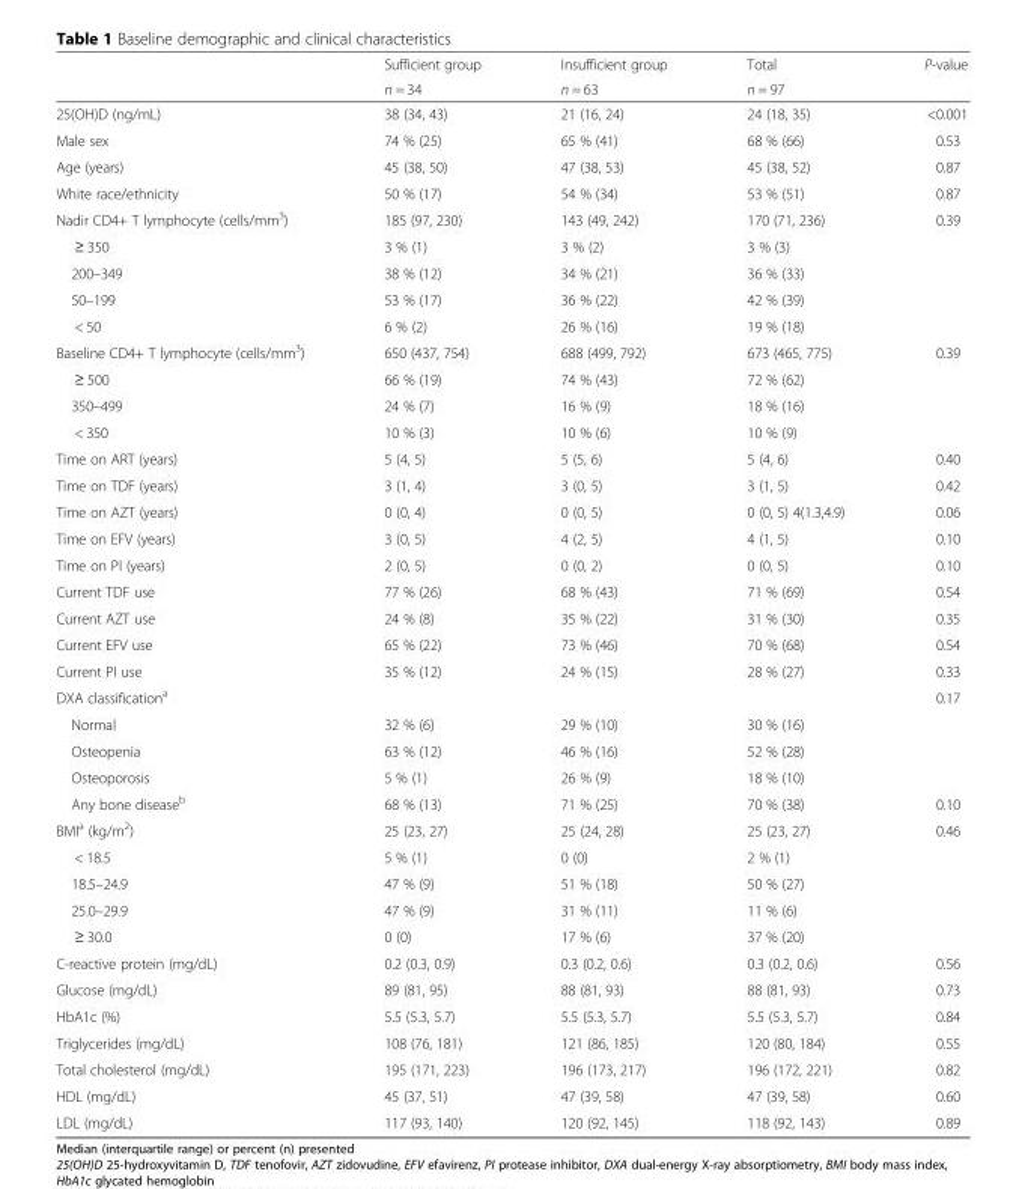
<table><thead><tr><td rowspan="2"></td><td rowspan="2">Sufficient group n = 34</td><td rowspan="2">Insufficient group n = 63</td><td rowspan="2">Total n = 97</td><td rowspan="2">P-value</td></tr><tr></tr></thead><tbody><tr><td>25(OH)D (ng/mL)</td><td>38 (34, 43)</td><td>21 (16, 24)</td><td>24 (18, 35)</td><td>&lt;0.001</td></tr><tr><td>Male sex</td><td>74 % (25)</td><td>65 % (41)</td><td>68 % (66)</td><td>0.53</td></tr><tr><td>Age (years)</td><td>45 (38, 50)</td><td>47 (38, 53)</td><td>45 (38, 52)</td><td>0.87</td></tr><tr><td>White race/ethnicity</td><td>50 % (17)</td><td>54 % (34)</td><td>53 % (51)</td><td>0.87</td></tr><tr><td>Nadir CD4+ T lymphocyte (cells/mm<sup>3</sup>)</td><td>185 (97, 230)</td><td>143 (49, 242)</td><td>170 (71, 236)</td><td>0.39</td></tr><tr><td>≥ 350</td><td>3 % (1)</td><td>3 % (2)</td><td>3 % (3)</td><td></td></tr><tr><td>200–349</td><td>38 % (12)</td><td>34 % (21)</td><td>36 % (33)</td><td></td></tr><tr><td>50–199</td><td>53 % (17)</td><td>36 % (22)</td><td>42 % (39)</td><td></td></tr><tr><td>&lt; 50</td><td>6 % (2)</td><td>26 % (16)</td><td>19 % (18)</td><td></td></tr><tr><td>Baseline CD4+ T lymphocyte (cells/mm<sup>3</sup>)</td><td>650 (437, 754)</td><td>688 (499, 792)</td><td>673 (465, 775)</td><td>0.39</td></tr><tr><td>≥ 500</td><td>66 % (19)</td><td>74 % (43)</td><td>72 % (62)</td><td></td></tr><tr><td>350–499</td><td>24 % (7)</td><td>16 % (9)</td><td>18 % (16)</td><td></td></tr><tr><td>&lt; 350</td><td>10 % (3)</td><td>10 % (6)</td><td>10 % (9)</td><td></td></tr><tr><td>Time on ART (years)</td><td>5 (4, 5)</td><td>5 (5, 6)</td><td>5 (4, 6)</td><td>0.40</td></tr><tr><td>Time on TDF (years)</td><td>3 (1, 4)</td><td>3 (0, 5)</td><td>3 (1, 5)</td><td>0.42</td></tr><tr><td>Time on AZT (years)</td><td>0 (0, 4)</td><td>0 (0, 5)</td><td>0 (0, 5) 4(1.3,4.9)</td><td>0.06</td></tr><tr><td>Time on EFV (years)</td><td>3 (0, 5)</td><td>4 (2, 5)</td><td>4 (1, 5)</td><td>0.10</td></tr><tr><td>Time on PI (years)</td><td>2 (0, 5)</td><td>0 (0, 2)</td><td>0 (0, 5)</td><td>0.10</td></tr><tr><td>Current TDF use</td><td>77 % (26)</td><td>68 % (43)</td><td>71 % (69)</td><td>0.54</td></tr><tr><td>Current AZT use</td><td>24 % (8)</td><td>35 % (22)</td><td>31 % (30)</td><td>0.35</td></tr><tr><td>Current EFV use</td><td>65 % (22)</td><td>73 % (46)</td><td>70 % (68)</td><td>0.54</td></tr><tr><td>Current PI use</td><td>35 % (12)</td><td>24 % (15)</td><td>28 % (27)</td><td>0.33</td></tr><tr><td>DXA classification<sup>a</sup></td><td></td><td></td><td></td><td>0.17</td></tr><tr><td>Normal</td><td>32 % (6)</td><td>29 % (10)</td><td>30 % (16)</td><td></td></tr><tr><td>Osteopenia</td><td>63 % (12)</td><td>46 % (16)</td><td>52 % (28)</td><td></td></tr><tr><td>Osteoporosis</td><td>5 % (1)</td><td>26 % (9)</td><td>18 % (10)</td><td></td></tr><tr><td>Any bone disease<sup>b</sup></td><td>68 % (13)</td><td>71 % (25)</td><td>70 % (38)</td><td>0.10</td></tr><tr><td>BMI<sup>a</sup> (kg/m<sup>2</sup>)</td><td>25 (23, 27)</td><td>25 (24, 28)</td><td>25 (23, 27)</td><td>0.46</td></tr><tr><td>&lt; 18.5</td><td>5 % (1)</td><td>0 (0)</td><td>2 % (1)</td><td></td></tr><tr><td>18.5–24.9</td><td>47 % (9)</td><td>51 % (18)</td><td>50 % (27)</td><td></td></tr><tr><td>25.0–29.9</td><td>47 % (9)</td><td>31 % (11)</td><td>11 % (6)</td><td></td></tr><tr><td>≥ 30.0</td><td>0 (0)</td><td>17 % (6)</td><td>37 % (20)</td><td></td></tr><tr><td>C-reactive protein (mg/dL)</td><td>0.2 (0.3, 0.9)</td><td>0.3 (0.2, 0.6)</td><td>0.3 (0.2, 0.6)</td><td>0.56</td></tr><tr><td>Glucose (mg/dL)</td><td>89 (81, 95)</td><td>88 (81, 93)</td><td>88 (81, 93)</td><td>0.73</td></tr><tr><td>HbA1c (%)</td><td>5.5 (5.3, 5.7)</td><td>5.5 (5.3, 5.7)</td><td>5.5 (5.3, 5.7)</td><td>0.84</td></tr><tr><td>Triglycerides (mg/dL)</td><td>108 (76, 181)</td><td>121 (86, 185)</td><td>120 (80, 184)</td><td>0.55</td></tr><tr><td>Total cholesterol (mg/dL)</td><td>195 (171, 223)</td><td>196 (173, 217)</td><td>196 (172, 221)</td><td>0.82</td></tr><tr><td>HDL (mg/dL)</td><td>45 (37, 51)</td><td>47 (39, 58)</td><td>47 (39, 58)</td><td>0.60</td></tr><tr><td>LDL (mg/dL)</td><td>117 (93, 140)</td><td>120 (92, 145)</td><td>118 (92, 143)</td><td>0.89</td></tr></tbody></table>